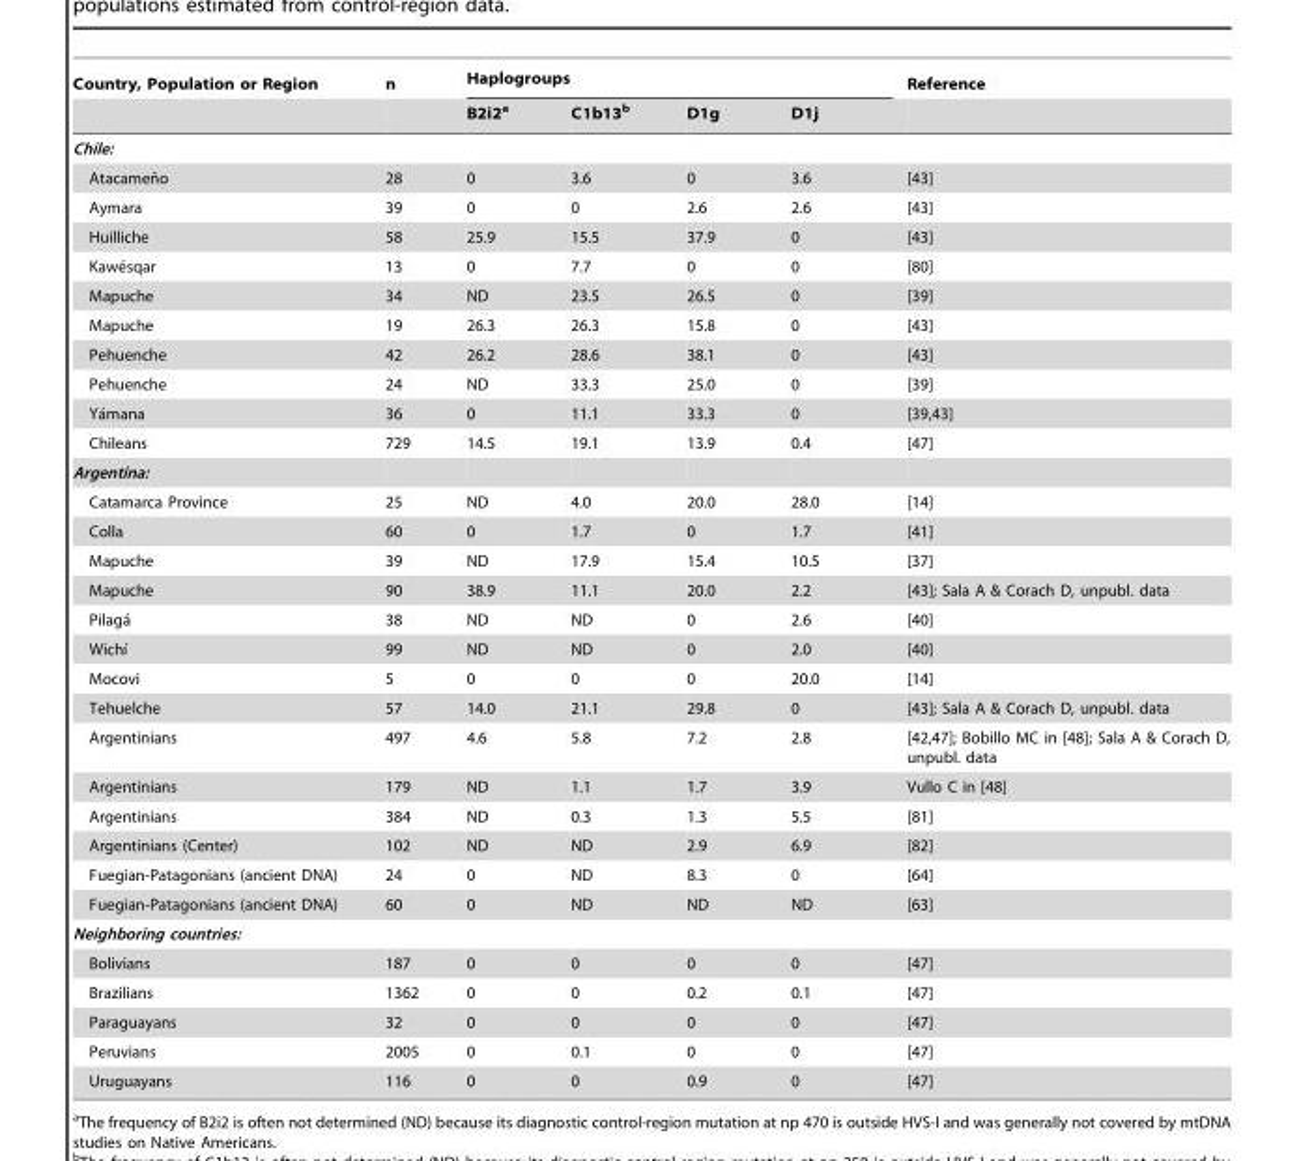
<table><thead><tr><td rowspan="2">Country, Population or Region</td><td rowspan="2">n</td><td colspan="4">Haplogroups</td><td rowspan="2">Reference</td></tr><tr><td>B2i2<sup>a</sup></td><td>C1b13<sup>b</sup></td><td>D1g</td><td>D1j</td></tr></thead><tbody><tr><td colspan="7">Chile:</td></tr><tr><td>Atacamen˜o</td><td>28</td><td>0</td><td>3.6</td><td>0</td><td>3.6</td><td>[43]</td></tr><tr><td>Aymara</td><td>39</td><td>0</td><td>0</td><td>2.6</td><td>2.6</td><td>[43]</td></tr><tr><td>Huilliche</td><td>58</td><td>25.9</td><td>15.5</td><td>37.9</td><td>0</td><td>[43]</td></tr><tr><td>Kawe´sqar</td><td>13</td><td>0</td><td>7.7</td><td>0</td><td>0</td><td>[80]</td></tr><tr><td>Mapuche</td><td>34</td><td>ND</td><td>23.5</td><td>26.5</td><td>0</td><td>[39]</td></tr><tr><td>Mapuche</td><td>19</td><td>26.3</td><td>26.3</td><td>15.8</td><td>0</td><td>[43]</td></tr><tr><td>Pehuenche</td><td>42</td><td>26.2</td><td>28.6</td><td>38.1</td><td>0</td><td>[43]</td></tr><tr><td>Pehuenche</td><td>24</td><td>ND</td><td>33.3</td><td>25.0</td><td>0</td><td>[39]</td></tr><tr><td>Ya´mana</td><td>36</td><td>0</td><td>11.1</td><td>33.3</td><td>0</td><td>[39,43]</td></tr><tr><td>Chileans</td><td>729</td><td>14.5</td><td>19.1</td><td>13.9</td><td>0.4</td><td>[47]</td></tr><tr><td colspan="7">Argentina:</td></tr><tr><td>Catamarca Province</td><td>25</td><td>ND</td><td>4.0</td><td>20.0</td><td>28.0</td><td>[14]</td></tr><tr><td>Colla</td><td>60</td><td>0</td><td>1.7</td><td>0</td><td>1.7</td><td>[41]</td></tr><tr><td>Mapuche</td><td>39</td><td>ND</td><td>17.9</td><td>15.4</td><td>10.5</td><td>[37]</td></tr><tr><td>Mapuche</td><td>90</td><td>38.9</td><td>11.1</td><td>20.0</td><td>2.2</td><td>[43]; Sala A &amp; Corach D, unpubl. data</td></tr><tr><td>Pilaga´</td><td>38</td><td>ND</td><td>ND</td><td>0</td><td>2.6</td><td>[40]</td></tr><tr><td>Wichı´</td><td>99</td><td>ND</td><td>ND</td><td>0</td><td>2.0</td><td>[40]</td></tr><tr><td>Mocovi</td><td>5</td><td>0</td><td>0</td><td>0</td><td>20.0</td><td>[14]</td></tr><tr><td>Tehuelche</td><td>57</td><td>14.0</td><td>21.1</td><td>29.8</td><td>0</td><td>[43]; Sala A &amp; Corach D, unpubl. data</td></tr><tr><td>Argentinians</td><td>497</td><td>4.6</td><td>5.8</td><td>7.2</td><td>2.8</td><td>[42,47]; Bobillo MC in [48]; Sala A &amp; Corach D, unpubl. data</td></tr><tr><td>Argentinians</td><td>179</td><td>ND</td><td>1.1</td><td>1.7</td><td>3.9</td><td>Vullo C in [48]</td></tr><tr><td>Argentinians</td><td>384</td><td>ND</td><td>0.3</td><td>1.3</td><td>5.5</td><td>[81]</td></tr><tr><td>Argentinians (Center)</td><td>102</td><td>ND</td><td>ND</td><td>2.9</td><td>6.9</td><td>[82]</td></tr><tr><td>Fuegian-Patagonians (ancient DNA)</td><td>24</td><td>0</td><td>ND</td><td>8.3</td><td>0</td><td>[64]</td></tr><tr><td>Fuegian-Patagonians (ancient DNA)</td><td>60</td><td>0</td><td>ND</td><td>ND</td><td>ND</td><td>[63]</td></tr><tr><td colspan="7">Neighboring countries:</td></tr><tr><td>Bolivians</td><td>187</td><td>0</td><td>0</td><td>0</td><td>0</td><td>[47]</td></tr><tr><td>Brazilians</td><td>1362</td><td>0</td><td>0</td><td>0.2</td><td>0.1</td><td>[47]</td></tr><tr><td>Paraguayans</td><td>32</td><td>0</td><td>0</td><td>0</td><td>0</td><td>[47]</td></tr><tr><td>Peruvians</td><td>2005</td><td>0</td><td>0.1</td><td>0</td><td>0</td><td>[47]</td></tr><tr><td>Uruguayans</td><td>116</td><td>0</td><td>0</td><td>0.9</td><td>0</td><td>[47]</td></tr></tbody></table>